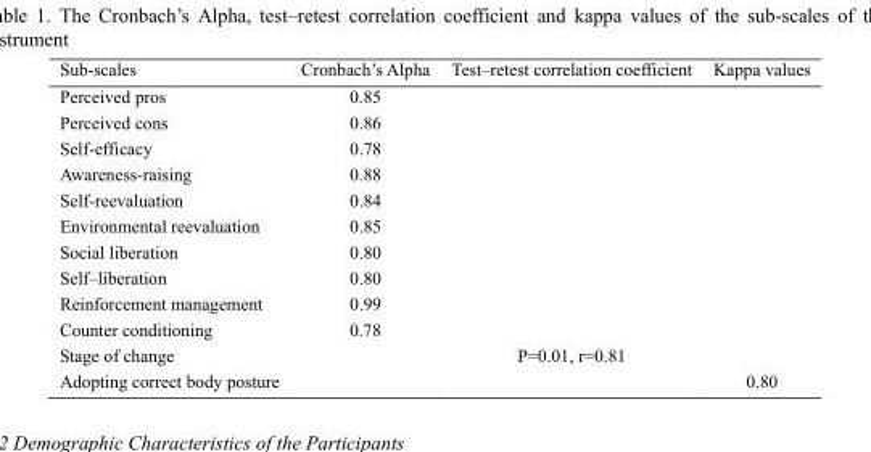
<table><thead><tr><td>Sub-scales</td><td>Cronbach’s Alpha</td><td>Test–retest correlation coefficient</td><td>Kappa values</td></tr></thead><tbody><tr><td>Perceived pros</td><td>0.85</td><td></td><td></td></tr><tr><td>Perceived cons</td><td>0.86</td><td></td><td></td></tr><tr><td>Self-efficacy</td><td>0.78</td><td></td><td></td></tr><tr><td>Awareness-raising</td><td>0.88</td><td></td><td></td></tr><tr><td>Self-reevaluation</td><td>0.84</td><td></td><td></td></tr><tr><td>Environmental reevaluation</td><td>0.85</td><td></td><td></td></tr><tr><td>Social liberation</td><td>0.80</td><td></td><td></td></tr><tr><td>Self–liberation</td><td>0.80</td><td></td><td></td></tr><tr><td>Reinforcement management</td><td>0.99</td><td></td><td></td></tr><tr><td>Counter conditioning</td><td>0.78</td><td></td><td></td></tr><tr><td>Stage of change</td><td></td><td>P=0.01, r=0.81</td><td></td></tr><tr><td>Adopting correct body posture</td><td></td><td></td><td>0.80</td></tr></tbody></table>